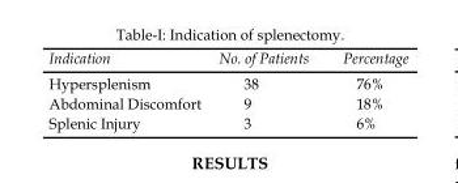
<table><thead><tr><td>Indication</td><td>No. of Patients</td><td>Percentage</td></tr></thead><tbody><tr><td>Hypersplenism</td><td>38</td><td>76%</td></tr><tr><td>Abdominal Discomfort</td><td>9</td><td>18%</td></tr><tr><td>Splenic Injury</td><td>3</td><td>6%</td></tr></tbody></table>